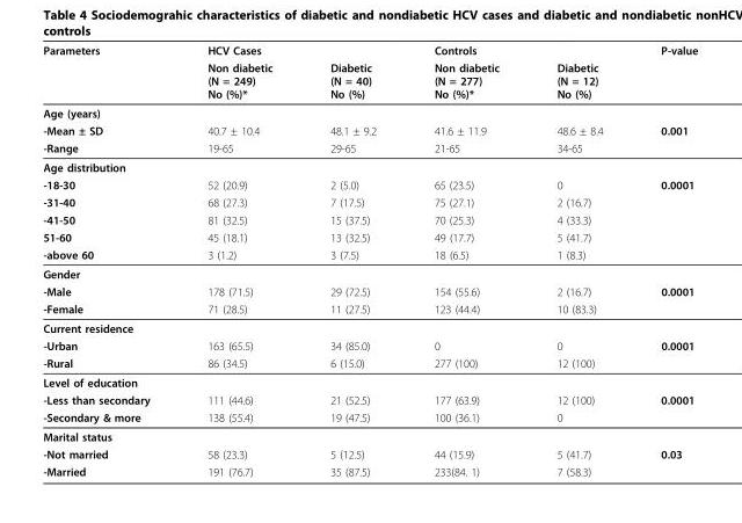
<table><thead><tr><td rowspan="2">Parameters</td><td colspan="2">HCV Cases</td><td colspan="2">Controls</td><td rowspan="2">P-value</td></tr><tr><td>Non diabetic (N = 249) No (%)*</td><td>Diabetic (N = 40) No (%)</td><td>Non diabetic (N = 277) No (%)*</td><td>Diabetic (N = 12) No (%)</td></tr></thead><tbody><tr><td colspan="6">Age (years)</td></tr><tr><td>-Mean ± SD</td><td>40.7 ± 10.4</td><td>48.1 ± 9.2</td><td>41.6 ± 11.9</td><td>48.6 ± 8.4</td><td>0.001</td></tr><tr><td>-Range</td><td>19-65</td><td>29-65</td><td>21-65</td><td>34-65</td><td></td></tr><tr><td colspan="6">Age distribution</td></tr><tr><td>-18-30</td><td>52 (20.9)</td><td>2 (5.0)</td><td>65 (23.5)</td><td>0</td><td>0.0001</td></tr><tr><td>-31-40</td><td>68 (27.3)</td><td>7 (17.5)</td><td>75 (27.1)</td><td>2 (16.7)</td><td></td></tr><tr><td>-41-50</td><td>81 (32.5)</td><td>15 (37.5)</td><td>70 (25.3)</td><td>4 (33.3)</td><td></td></tr><tr><td>51-60</td><td>45 (18.1)</td><td>13 (32.5)</td><td>49 (17.7)</td><td>5 (41.7)</td><td></td></tr><tr><td>-above 60</td><td>3 (1.2)</td><td>3 (7.5)</td><td>18 (6.5)</td><td>1 (8.3)</td><td></td></tr><tr><td colspan="6">Gender</td></tr><tr><td>-Male</td><td>178 (71.5)</td><td>29 (72.5)</td><td>154 (55.6)</td><td>2 (16.7)</td><td>0.0001</td></tr><tr><td>-Female</td><td>71 (28.5)</td><td>11 (27.5)</td><td>123 (44.4)</td><td>10 (83.3)</td><td></td></tr><tr><td colspan="6">Current residence</td></tr><tr><td>-Urban</td><td>163 (65.5)</td><td>34 (85.0)</td><td>0</td><td>0</td><td>0.0001</td></tr><tr><td>-Rural</td><td>86 (34.5)</td><td>6 (15.0)</td><td>277 (100)</td><td>12 (100)</td><td></td></tr><tr><td colspan="6">Level of education</td></tr><tr><td>-Less than secondary</td><td>111 (44.6)</td><td>21 (52.5)</td><td>177 (63.9)</td><td>12 (100)</td><td>0.0001</td></tr><tr><td>-Secondary &amp; more</td><td>138 (55.4)</td><td>19 (47.5)</td><td>100 (36.1)</td><td>0</td><td></td></tr><tr><td colspan="6">Marital status</td></tr><tr><td>-Not married</td><td>58 (23.3)</td><td>5 (12.5)</td><td>44 (15.9)</td><td>5 (41.7)</td><td>0.03</td></tr><tr><td>-Married</td><td>191 (76.7)</td><td>35 (87.5)</td><td>233(84. 1)</td><td>7 (58.3)</td><td></td></tr></tbody></table>